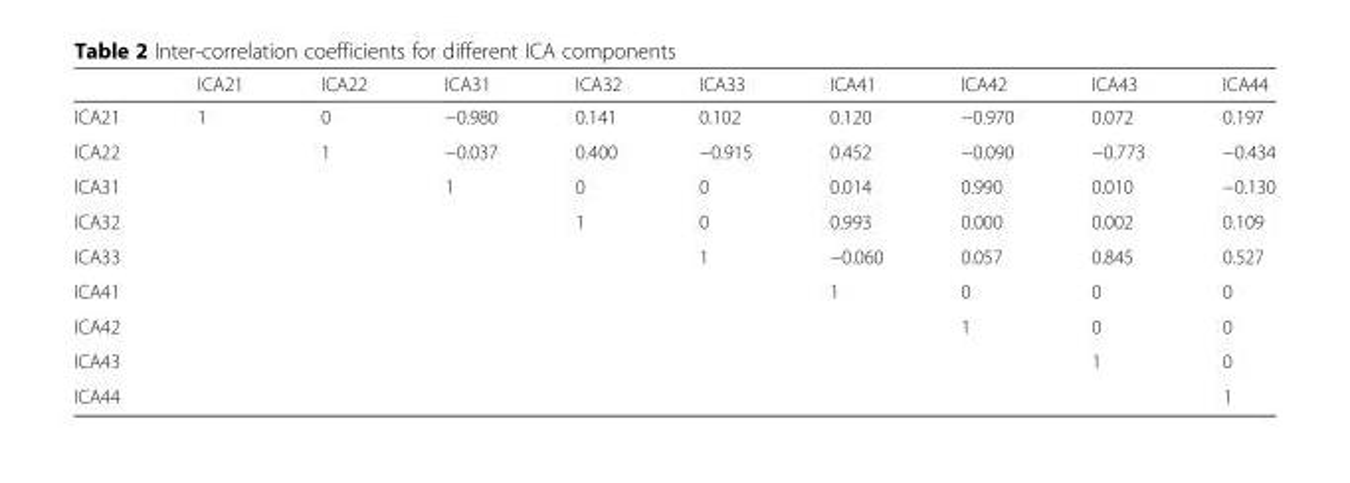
<table><thead><tr><td></td><td>ICA21</td><td>ICA22</td><td>ICA31</td><td>ICA32</td><td>ICA33</td><td>ICA41</td><td>ICA42</td><td>ICA43</td><td>ICA44</td></tr></thead><tbody><tr><td>ICA21</td><td>1</td><td>0</td><td>−0.980</td><td>0.141</td><td>0.102</td><td>0.120</td><td>−0.970</td><td>0.072</td><td>0.197</td></tr><tr><td>ICA22</td><td></td><td>1</td><td>−0.037</td><td>0.400</td><td>−0.915</td><td>0.452</td><td>−0.090</td><td>−0.773</td><td>−0.434</td></tr><tr><td>ICA31</td><td></td><td></td><td>1</td><td>0</td><td>0</td><td>0.014</td><td>0.990</td><td>0.010</td><td>−0.130</td></tr><tr><td>ICA32</td><td></td><td></td><td></td><td>1</td><td>0</td><td>0.993</td><td>0.000</td><td>0.002</td><td>0.109</td></tr><tr><td>ICA33</td><td></td><td></td><td></td><td></td><td>1</td><td>−0.060</td><td>0.057</td><td>0.845</td><td>0.527</td></tr><tr><td>ICA41</td><td></td><td></td><td></td><td></td><td></td><td>1</td><td>0</td><td>0</td><td>0</td></tr><tr><td>ICA42</td><td></td><td></td><td></td><td></td><td></td><td></td><td>1</td><td>0</td><td>0</td></tr><tr><td>ICA43</td><td></td><td></td><td></td><td></td><td></td><td></td><td></td><td>1</td><td>0</td></tr><tr><td>ICA44</td><td></td><td></td><td></td><td></td><td></td><td></td><td></td><td></td><td>1</td></tr></tbody></table>